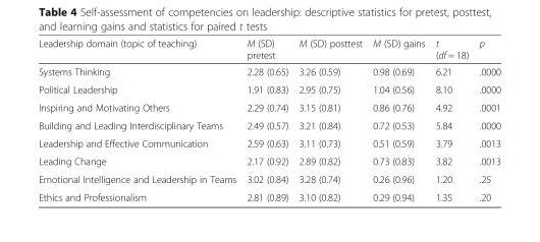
<table><thead><tr><td>Leadership domain (topic of teaching)</td><td>M (SD) pretest</td><td>M (SD) posttest</td><td>M (SD) gains</td><td>t (df = 18)</td><td>p</td></tr></thead><tbody><tr><td>Systems Thinking</td><td>2.28 (0.65)</td><td>3.26 (0.59)</td><td>0.98 (0.69)</td><td>6.21</td><td>.0000</td></tr><tr><td>Political Leadership</td><td>1.91 (0.83)</td><td>2.95 (0.75)</td><td>1.04 (0.56)</td><td>8.10</td><td>.0000</td></tr><tr><td>Inspiring and Motivating Others</td><td>2.29 (0.74)</td><td>3.15 (0.81)</td><td>0.86 (0.76)</td><td>4.92</td><td>.0001</td></tr><tr><td>Building and Leading Interdisciplinary Teams</td><td>2.49 (0.57)</td><td>3.21 (0.84)</td><td>0.72 (0.53)</td><td>5.84</td><td>.0000</td></tr><tr><td>Leadership and Effective Communication</td><td>2.59 (0.63)</td><td>3.11 (0.73)</td><td>0.51 (0.59)</td><td>3.79</td><td>.0013</td></tr><tr><td>Leading Change</td><td>2.17 (0.92)</td><td>2.89 (0.82)</td><td>0.73 (0.83)</td><td>3.82</td><td>.0013</td></tr><tr><td>Emotional Intelligence and Leadership in Teams</td><td>3.02 (0.84)</td><td>3.28 (0.74)</td><td>0.26 (0.96)</td><td>1.20</td><td>.25</td></tr><tr><td>Ethics and Professionalism</td><td>2.81 (0.89)</td><td>3.10 (0.82)</td><td>0.29 (0.94)</td><td>1.35</td><td>.20</td></tr></tbody></table>